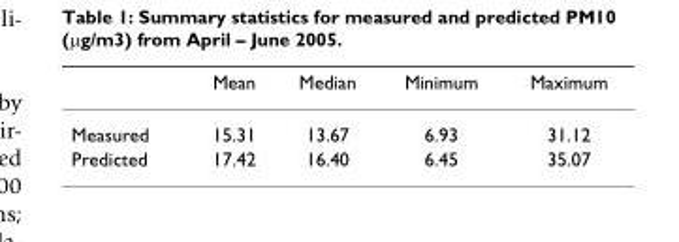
<table><thead><tr><td></td><td>Mean</td><td>Median</td><td>Minimum</td><td>Maximum</td></tr></thead><tbody><tr><td>Measured</td><td>15.31</td><td>13.67</td><td>6.93</td><td>31.12</td></tr><tr><td>Predicted</td><td>17.42</td><td>16.40</td><td>6.45</td><td>35.07</td></tr></tbody></table>